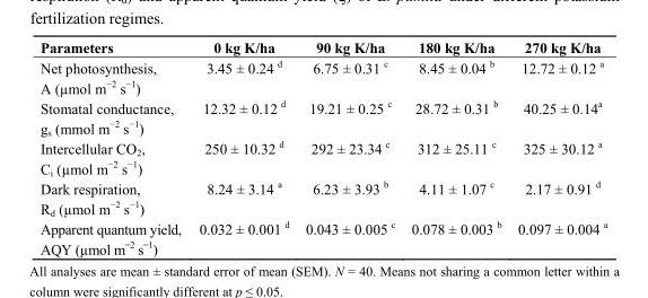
<table><thead><tr><td>Parameters</td><td>0 kg K/ha</td><td>90 kg K/ha</td><td>180 kg K/ha</td><td>270 kg K/ha</td></tr></thead><tbody><tr><td>Net photosynthesis, A (µmol m<sup>−2</sup> s<sup>−1</sup>)</td><td>3.45 ± 0.24 <sup>d</sup></td><td>6.75 ± 0.31 <sup>c</sup></td><td>8.45 ± 0.04 <sup>b</sup></td><td>12.72 ± 0.12 <sup>a</sup></td></tr><tr><td>Stomatal conductance, g<sub>s</sub> (mmol m<sup>−2</sup> s<sup>−1</sup>)</td><td>12.32 ± 0.12 <sup>d</sup></td><td>19.21 ± 0.25 <sup>c</sup></td><td>28.72 ± 0.31 <sup>b</sup></td><td>40.25 ± 0.14<sup>a</sup></td></tr><tr><td>Intercellular CO<sub>2</sub>, C<sub>i</sub> (µmol m<sup>−2</sup> s<sup>−1</sup>)</td><td>250 ± 10.32 <sup>d</sup></td><td>292 ± 23.34 <sup>c</sup></td><td>312 ± 25.11 <sup>c</sup></td><td>325 ± 30.12 <sup>a</sup></td></tr><tr><td>Dark respiration, R<sub>d</sub> (µmol m<sup>−2</sup> s<sup>−1</sup>)</td><td>8.24 ± 3.14 <sup>a</sup></td><td>6.23 ± 3.93 <sup>b</sup></td><td>4.11 ± 1.07 <sup>c</sup></td><td>2.17 ± 0.91 <sup>d</sup></td></tr><tr><td>Apparent quantum yield, AQY (µmol m<sup>−2</sup> s<sup>−1</sup>)</td><td>0.032 ± 0.001 <sup>d</sup></td><td>0.043 ± 0.005 <sup>c</sup></td><td>0.078 ± 0.003 <sup>b</sup></td><td>0.097 ± 0.004 <sup>a</sup></td></tr></tbody></table>